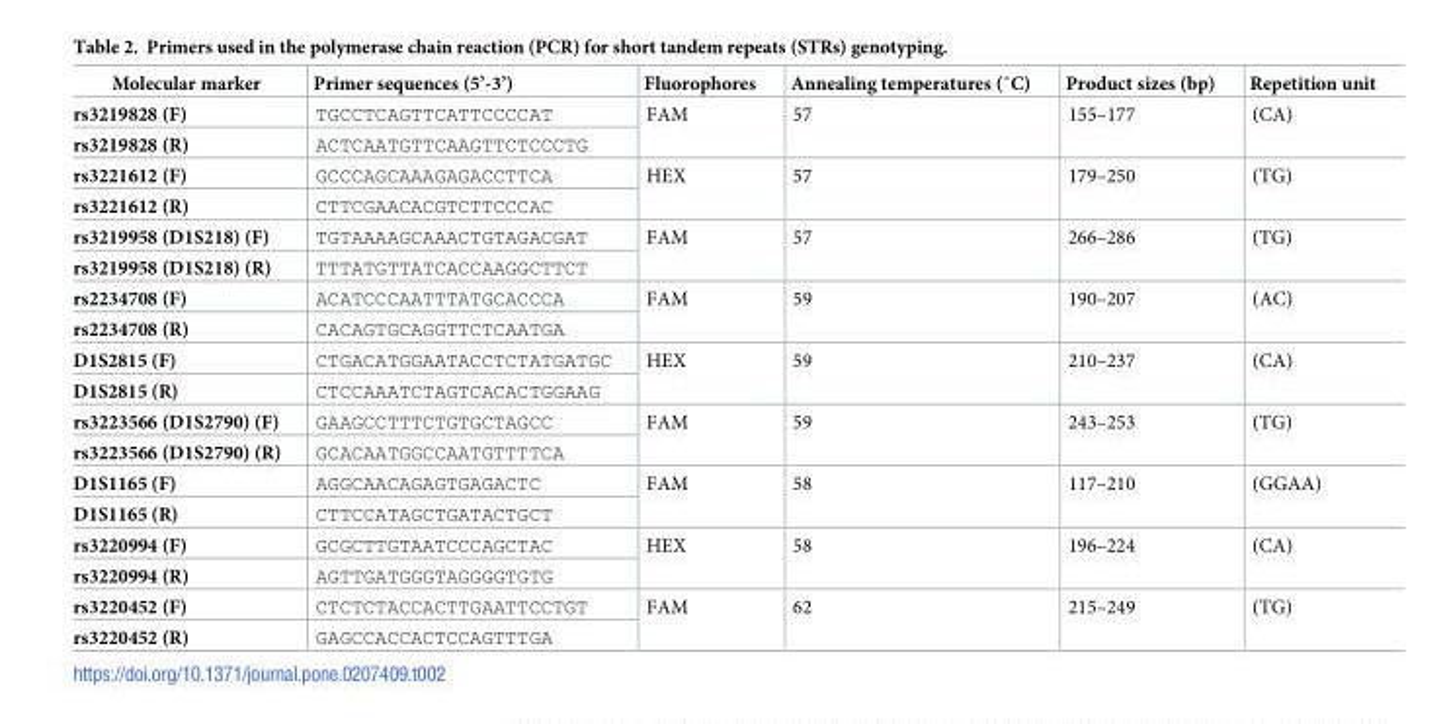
<table><thead><tr><td>Molecular marker</td><td>Primer sequences (5’-3’)</td><td>Fluorophores</td><td>Annealing temperatures (˚C)</td><td>Product sizes (bp)</td><td>Repetition unit</td></tr></thead><tbody><tr><td>rs3219828 (F)</td><td>TGCCTCAGTTCATTCCCCAT</td><td rowspan="2">FAM</td><td rowspan="2">57</td><td rowspan="2">155–177</td><td rowspan="2">(CA)</td></tr><tr><td>rs3219828 (R)</td><td>ACTCAATGTTCAAGTTCTCCCTG</td></tr><tr><td>rs3221612 (F)</td><td>GCCCAGCAAAGAGACCTTCA</td><td rowspan="2">HEX</td><td rowspan="2">57</td><td rowspan="2">179–250</td><td rowspan="2">(TG)</td></tr><tr><td>rs3221612 (R)</td><td>CTTCGAACACGTCTTCCCAC</td></tr><tr><td>rs3219958 (D1S218) (F)</td><td>TGTAAAAGCAAACTGTAGACGAT</td><td rowspan="2">FAM</td><td rowspan="2">57</td><td rowspan="2">266–286</td><td rowspan="2">(TG)</td></tr><tr><td>rs3219958 (D1S218) (R)</td><td>TTTATGTTATCACCAAGGCTTCT</td></tr><tr><td>rs2234708 (F)</td><td>ACATCCCAATTTATGCACCCA</td><td rowspan="2">FAM</td><td rowspan="2">59</td><td rowspan="2">190–207</td><td rowspan="2">(AC)</td></tr><tr><td>rs2234708 (R)</td><td>CACAGTGCAGGTTCTCAATGA</td></tr><tr><td>D1S2815 (F)</td><td>CTGACATGGAATACCTCTATGATGC</td><td rowspan="2">HEX</td><td rowspan="2">59</td><td rowspan="2">210–237</td><td rowspan="2">(CA)</td></tr><tr><td>D1S2815 (R)</td><td>CTCCAAATCTAGTCACACTGGAAG</td></tr><tr><td>rs3223566 (D1S2790) (F)</td><td>GAAGCCTTTCTGTGCTAGCC</td><td rowspan="2">FAM</td><td rowspan="2">59</td><td rowspan="2">243–253</td><td rowspan="2">(TG)</td></tr><tr><td>rs3223566 (D1S2790) (R)</td><td>GCACAATGGCCAATGTTTTCA</td></tr><tr><td>D1S1165 (F)</td><td>AGGCAACAGAGTGAGACTC</td><td rowspan="2">FAM</td><td rowspan="2">58</td><td rowspan="2">117–210</td><td rowspan="2">(GGAA)</td></tr><tr><td>D1S1165 (R)</td><td>CTTCCATAGCTGATACTGCT</td></tr><tr><td>rs3220994 (F)</td><td>GCGCTTGTAATCCCAGCTAC</td><td rowspan="2">HEX</td><td rowspan="2">58</td><td rowspan="2">196–224</td><td rowspan="2">(CA)</td></tr><tr><td>rs3220994 (R)</td><td>AGTTGATGGGTAGGGGTGTG</td></tr><tr><td>rs3220452 (F)</td><td>CTCTCTACCACTTGAATTCCTGT</td><td rowspan="2">FAM</td><td rowspan="2">62</td><td rowspan="2">215–249</td><td rowspan="2">(TG)</td></tr><tr><td>rs3220452 (R)</td><td>GAGCCACCACTCCAGTTTGA</td></tr></tbody></table>